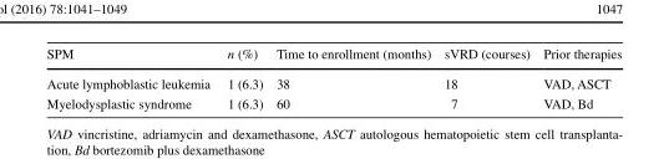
<table><thead><tr><td>SPM</td><td>n (%)</td><td>Time to enrollment (months)</td><td>sVRD (courses)</td><td>Prior therapies</td></tr></thead><tbody><tr><td>Acute lymphoblastic leukemia</td><td>1 (6.3)</td><td>38</td><td>18</td><td>VAD, ASCT</td></tr><tr><td>Myelodysplastic syndrome</td><td>1 (6.3)</td><td>60</td><td>7</td><td>VAD, Bd</td></tr></tbody></table>